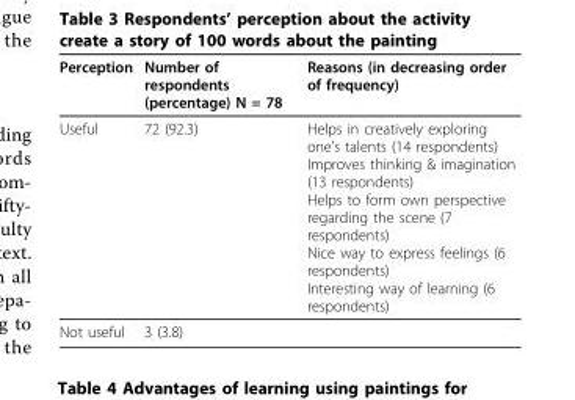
<table><thead><tr><td>Perception</td><td>Number of respondents (percentage) N = 78</td><td>Reasons (in decreasing order of frequency)</td></tr></thead><tbody><tr><td>Useful</td><td>72 (92.3)</td><td>Helps in creatively exploring one’s talents (14 respondents) Improves thinking &amp; imagination (13 respondents) Helps to form own perspective regarding the scene (7 respondents) Nice way to express feelings (6 respondents) Interesting way of learning (6 respondents)</td></tr><tr><td>Not useful</td><td>3 (3.8)</td><td></td></tr></tbody></table>